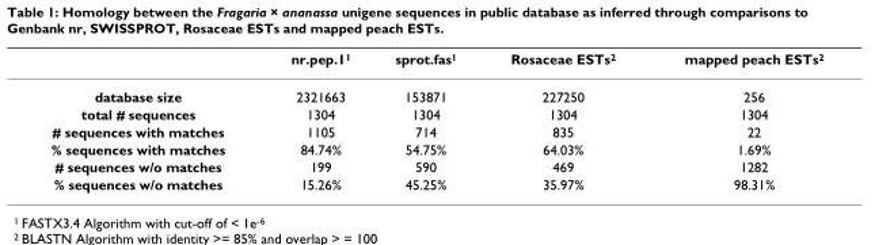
<table><thead><tr><td></td><td>nr.pep.11</td><td>sprot.fas1</td><td>Rosaceae ESTs2</td><td>mapped peach ESTs2</td></tr></thead><tbody><tr><td>database size</td><td>2321663</td><td>153871</td><td>227250</td><td>256</td></tr><tr><td>total # sequences</td><td>1304</td><td>1304</td><td>1304</td><td>1304</td></tr><tr><td># sequences with matches</td><td>1105</td><td>714</td><td>835</td><td>22</td></tr><tr><td>% sequences with matches</td><td>84.74%</td><td>54.75%</td><td>64.03%</td><td>1.69%</td></tr><tr><td># sequences w/o matches</td><td>199</td><td>590</td><td>469</td><td>1282</td></tr><tr><td>% sequences w/o matches</td><td>15.26%</td><td>45.25%</td><td>35.97%</td><td>98.31%</td></tr></tbody></table>